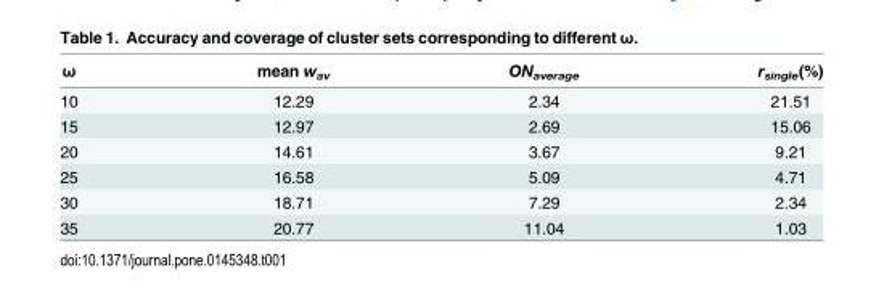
<table><thead><tr><td>ω</td><td>mean w<sub>av</sub></td><td>ON<sub>average</sub></td><td>r<sub>single</sub>(%)</td></tr></thead><tbody><tr><td>10</td><td>12.29</td><td>2.34</td><td>21.51</td></tr><tr><td>15</td><td>12.97</td><td>2.69</td><td>15.06</td></tr><tr><td>20</td><td>14.61</td><td>3.67</td><td>9.21</td></tr><tr><td>25</td><td>16.58</td><td>5.09</td><td>4.71</td></tr><tr><td>30</td><td>18.71</td><td>7.29</td><td>2.34</td></tr><tr><td>35</td><td>20.77</td><td>11.04</td><td>1.03</td></tr></tbody></table>